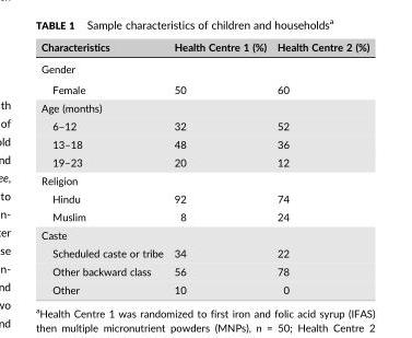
<table><thead><tr><td>Characteristics</td><td>Health Centre 1 (%)</td><td>Health Centre 2 (%)</td></tr></thead><tbody><tr><td colspan="3">Gender</td></tr><tr><td>Female</td><td>50</td><td>60</td></tr><tr><td colspan="3">Age (months)</td></tr><tr><td>6–12</td><td>32</td><td>52</td></tr><tr><td>13–18</td><td>48</td><td>36</td></tr><tr><td>19–23</td><td>20</td><td>12</td></tr><tr><td colspan="3">Religion</td></tr><tr><td>Hindu</td><td>92</td><td>74</td></tr><tr><td>Muslim</td><td>8</td><td>24</td></tr><tr><td colspan="3">Caste</td></tr><tr><td>Scheduled caste or tribe</td><td>34</td><td>22</td></tr><tr><td>Other backward class</td><td>56</td><td>78</td></tr><tr><td>Other</td><td>10</td><td>0</td></tr></tbody></table>